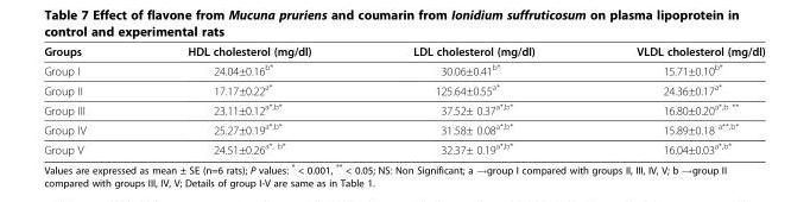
<table><thead><tr><td>Groups</td><td>HDL cholesterol (mg/dl)</td><td>LDL cholesterol (mg/dl)</td><td>VLDL cholesterol (mg/dl)</td></tr></thead><tbody><tr><td>Group I</td><td>24.04±0.16<sup>b*</sup></td><td>30.06±0.41<sup>b*</sup></td><td>15.71±0.10<sup>b*</sup></td></tr><tr><td>Group II</td><td>17.17±0.22<sup>a*</sup></td><td>125.64±0.55<sup>a*</sup></td><td>24.36±0.17<sup>a*</sup></td></tr><tr><td>Group III</td><td>23.11±0.12<sup>a*,b*</sup></td><td>37.52± 0.37<sup>a*,b*</sup></td><td>16.80±0.20<sup>a*,b **</sup></td></tr><tr><td>Group IV</td><td>25.27±0.19<sup>a*,b*</sup></td><td>31.58± 0.08<sup>a*,b*</sup></td><td>15.89±0.18 <sup>a**,b*</sup></td></tr><tr><td>Group V</td><td>24.51±0.26<sup>a*, b*</sup></td><td>32.37± 0.19<sup>a*,b*</sup></td><td>16.04±0.03<sup>a*,b*</sup></td></tr></tbody></table>